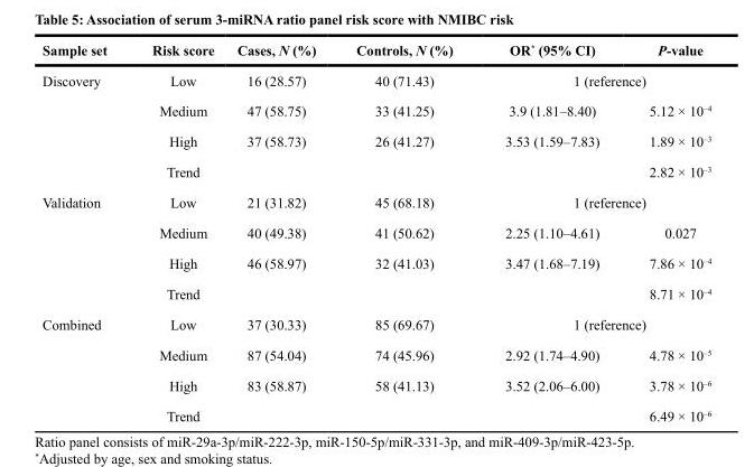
<table><thead><tr><td>Sample set</td><td>Risk score</td><td>Cases, N (%)</td><td>Controls, N (%)</td><td>OR* (95% CI)</td><td>P-value</td></tr></thead><tbody><tr><td rowspan="4">Discovery</td><td>Low</td><td>16 (28.57)</td><td>40 (71.43)</td><td colspan="2">1 (reference)</td></tr><tr><td>Medium</td><td>47 (58.75)</td><td>33 (41.25)</td><td>3.9 (1.81–8.40)</td><td>5.12 × 10<sup>–4</sup></td></tr><tr><td>High</td><td>37 (58.73)</td><td>26 (41.27)</td><td>3.53 (1.59–7.83)</td><td>1.89 × 10<sup>–3</sup></td></tr><tr><td>Trend</td><td></td><td></td><td></td><td>2.82 × 10<sup>–3</sup></td></tr><tr><td rowspan="4">Validation</td><td>Low</td><td>21 (31.82)</td><td>45 (68.18)</td><td colspan="2">1 (reference)</td></tr><tr><td>Medium</td><td>40 (49.38)</td><td>41 (50.62)</td><td>2.25 (1.10–4.61)</td><td>0.027</td></tr><tr><td>High</td><td>46 (58.97)</td><td>32 (41.03)</td><td>3.47 (1.68–7.19)</td><td>7.86 × 10<sup>–4</sup></td></tr><tr><td>Trend</td><td></td><td></td><td></td><td>8.71 × 10<sup>–4</sup></td></tr><tr><td rowspan="4">Combined</td><td>Low</td><td>37 (30.33)</td><td>85 (69.67)</td><td colspan="2">1 (reference)</td></tr><tr><td>Medium</td><td>87 (54.04)</td><td>74 (45.96)</td><td>2.92 (1.74–4.90)</td><td>4.78 × 10<sup>–5</sup></td></tr><tr><td>High</td><td>83 (58.87)</td><td>58 (41.13)</td><td>3.52 (2.06–6.00)</td><td>3.78 × 10<sup>–6</sup></td></tr><tr><td>Trend</td><td></td><td></td><td></td><td>6.49 × 10<sup>–6</sup></td></tr></tbody></table>